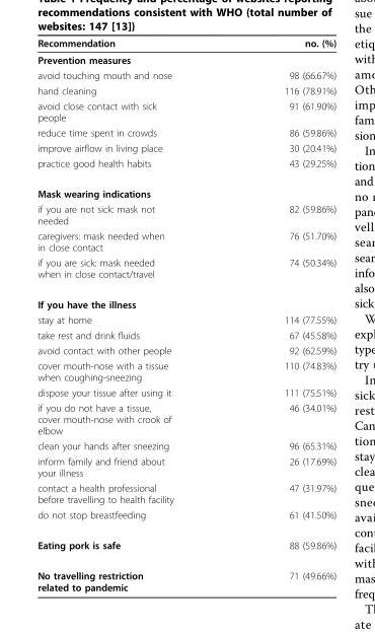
<table><thead><tr><td>Recommendation</td><td>no. (%)</td></tr></thead><tbody><tr><td colspan="2">Prevention measures</td></tr><tr><td>avoid touching mouth and nose</td><td>98 (66.67%)</td></tr><tr><td>hand cleaning</td><td>116 (78.91%)</td></tr><tr><td>avoid close contact with sick people</td><td>91 (61.90%)</td></tr><tr><td>reduce time spent in crowds</td><td>86 (59.86%)</td></tr><tr><td>improve airflow in living place</td><td>30 (20.41%)</td></tr><tr><td>practice good health habits</td><td>43 (29.25%)</td></tr><tr><td colspan="2">Mask wearing indications</td></tr><tr><td>if you are not sick: mask not needed</td><td>82 (59.86%)</td></tr><tr><td>caregivers: mask needed when in close contact</td><td>76 (51.70%)</td></tr><tr><td>if you are sick: mask needed when in close contact/travel</td><td>74 (50.34%)</td></tr><tr><td colspan="2">If you have the illness</td></tr><tr><td>stay at home</td><td>114 (77.55%)</td></tr><tr><td>take rest and drink fluids</td><td>67 (45.58%)</td></tr><tr><td>avoid contact with other people</td><td>92 (62.59%)</td></tr><tr><td>cover mouth-nose with a tissue when coughing-sneezing</td><td>110 (74.83%)</td></tr><tr><td>dispose your tissue after using it</td><td>111 (75.51%)</td></tr><tr><td>if you do not have a tissue, cover mouth-nose with crook of elbow</td><td>46 (34.01%)</td></tr><tr><td>clean your hands after sneezing</td><td>96 (65.31%)</td></tr><tr><td>inform family and friend about your illness</td><td>26 (17.69%)</td></tr><tr><td>contact a health professional before travelling to health facility</td><td>47 (31.97%)</td></tr><tr><td>do not stop breastfeeding</td><td>61 (41.50%)</td></tr><tr><td>Eating pork is safe</td><td>88 (59.86%)</td></tr><tr><td>No travelling restriction related to pandemic</td><td>71 (49.66%)</td></tr></tbody></table>